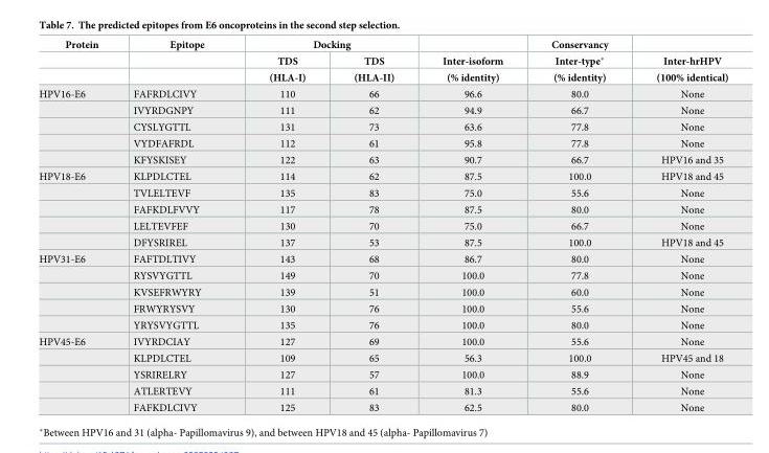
<table><thead><tr><td rowspan="3">Protein</td><td rowspan="3">Epitope</td><td colspan="2">Docking</td><td rowspan="3">Inter-isoform (% identity)</td><td rowspan="3">Conservancy Inter-type* (% identity)</td><td rowspan="3">Inter-hrHPV (100% identical)</td></tr><tr><td rowspan="2">TDS (HLA-I)</td><td rowspan="2">TDS (HLA-II)</td></tr><tr></tr></thead><tbody><tr><td rowspan="5">HPV16-E6</td><td>FAFRDLCIVY</td><td>110</td><td>66</td><td>96.6</td><td>80.0</td><td>None</td></tr><tr><td>IVYRDGNPY</td><td>111</td><td>62</td><td>94.9</td><td>66.7</td><td>None</td></tr><tr><td>CYSLYGTTL</td><td>131</td><td>73</td><td>63.6</td><td>77.8</td><td>None</td></tr><tr><td>VYDFAFRDL</td><td>112</td><td>61</td><td>95.8</td><td>77.8</td><td>None</td></tr><tr><td>KFYSKISEY</td><td>122</td><td>63</td><td>90.7</td><td>66.7</td><td>HPV16 and 35</td></tr><tr><td rowspan="5">HPV18-E6</td><td>KLPDLCTEL</td><td>114</td><td>62</td><td>87.5</td><td>100.0</td><td>HPV18 and 45</td></tr><tr><td>TVLELTEVF</td><td>135</td><td>83</td><td>75.0</td><td>55.6</td><td>None</td></tr><tr><td>FAFKDLFVVY</td><td>117</td><td>78</td><td>87.5</td><td>80.0</td><td>None</td></tr><tr><td>LELTEVFEF</td><td>130</td><td>70</td><td>75.0</td><td>66.7</td><td>None</td></tr><tr><td>DFYSRIREL</td><td>137</td><td>53</td><td>87.5</td><td>100.0</td><td>HPV18 and 45</td></tr><tr><td rowspan="5">HPV31-E6</td><td>FAFTDLTIVY</td><td>143</td><td>68</td><td>86.7</td><td>80.0</td><td>None</td></tr><tr><td>RYSVYGTTL</td><td>149</td><td>70</td><td>100.0</td><td>77.8</td><td>None</td></tr><tr><td>KVSEFRWYRY</td><td>139</td><td>51</td><td>100.0</td><td>60.0</td><td>None</td></tr><tr><td>FRWYRYSVY</td><td>130</td><td>76</td><td>100.0</td><td>55.6</td><td>None</td></tr><tr><td>YRYSVYGTTL</td><td>135</td><td>76</td><td>100.0</td><td>80.0</td><td>None</td></tr><tr><td rowspan="5">HPV45-E6</td><td>IVYRDCIAY</td><td>127</td><td>69</td><td>100.0</td><td>55.6</td><td>None</td></tr><tr><td>KLPDLCTEL</td><td>109</td><td>65</td><td>56.3</td><td>100.0</td><td>HPV45 and 18</td></tr><tr><td>YSRIRELRY</td><td>127</td><td>57</td><td>100.0</td><td>88.9</td><td>None</td></tr><tr><td>ATLERTEVY</td><td>111</td><td>61</td><td>81.3</td><td>55.6</td><td>None</td></tr><tr><td>FAFKDLCIVY</td><td>125</td><td>83</td><td>62.5</td><td>80.0</td><td>None</td></tr></tbody></table>